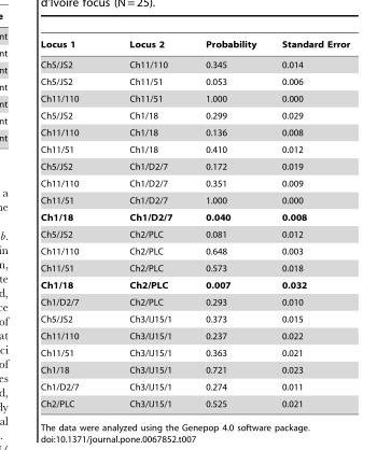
<table><thead><tr><td>Locus 1</td><td>Locus 2</td><td>Probability</td><td>Standard Error</td></tr></thead><tbody><tr><td>Ch5/JS2</td><td>Ch11/110</td><td>0.345</td><td>0.014</td></tr><tr><td>Ch5/JS2</td><td>Ch11/51</td><td>0.053</td><td>0.006</td></tr><tr><td>Ch11/110</td><td>Ch11/51</td><td>1.000</td><td>0.000</td></tr><tr><td>Ch5/JS2</td><td>Ch1/18</td><td>0.299</td><td>0.029</td></tr><tr><td>Ch11/110</td><td>Ch1/18</td><td>0.136</td><td>0.008</td></tr><tr><td>Ch11/51</td><td>Ch1/18</td><td>0.410</td><td>0.012</td></tr><tr><td>Ch5/JS2</td><td>Ch1/D2/7</td><td>0.172</td><td>0.019</td></tr><tr><td>Ch11/110</td><td>Ch1/D2/7</td><td>0.351</td><td>0.009</td></tr><tr><td>Ch11/51</td><td>Ch1/D2/7</td><td>1.000</td><td>0.000</td></tr><tr><td>Ch1/18</td><td>Ch1/D2/7</td><td>0.040</td><td>0.008</td></tr><tr><td>Ch5/JS2</td><td>Ch2/PLC</td><td>0.081</td><td>0.012</td></tr><tr><td>Ch11/110</td><td>Ch2/PLC</td><td>0.648</td><td>0.003</td></tr><tr><td>Ch11/51</td><td>Ch2/PLC</td><td>0.573</td><td>0.018</td></tr><tr><td>Ch1/18</td><td>Ch2/PLC</td><td>0.007</td><td>0.032</td></tr><tr><td>Ch1/D2/7</td><td>Ch2/PLC</td><td>0.293</td><td>0.010</td></tr><tr><td>Ch5/JS2</td><td>Ch3/IJ15/1</td><td>0.373</td><td>0.015</td></tr><tr><td>Ch11/110</td><td>Ch3/IJ15/1</td><td>0.237</td><td>0.022</td></tr><tr><td>Ch11/51</td><td>Ch3/IJ15/1</td><td>0.363</td><td>0.021</td></tr><tr><td>Ch1/18</td><td>Ch3/IJ15/1</td><td>0.721</td><td>0.023</td></tr><tr><td>Ch1/D2/7</td><td>Ch3/IJ15/1</td><td>0.274</td><td>0.011</td></tr><tr><td>Ch2/PLC</td><td>Ch3/IJ15/1</td><td>0.525</td><td>0.021</td></tr></tbody></table>